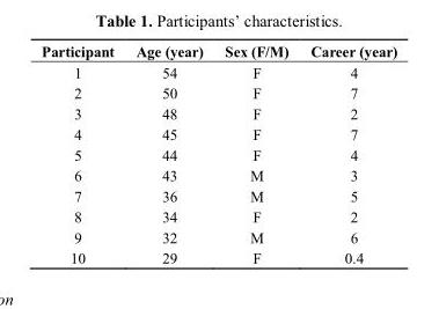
<table><thead><tr><td>Participant</td><td>Age (year)</td><td>Sex (F/M)</td><td>Career (year)</td></tr></thead><tbody><tr><td>1</td><td>54</td><td>F</td><td>4</td></tr><tr><td>2</td><td>50</td><td>F</td><td>7</td></tr><tr><td>3</td><td>48</td><td>F</td><td>2</td></tr><tr><td>4</td><td>45</td><td>F</td><td>7</td></tr><tr><td>5</td><td>44</td><td>F</td><td>4</td></tr><tr><td>6</td><td>43</td><td>M</td><td>3</td></tr><tr><td>7</td><td>36</td><td>M</td><td>5</td></tr><tr><td>8</td><td>34</td><td>F</td><td>2</td></tr><tr><td>9</td><td>32</td><td>M</td><td>6</td></tr><tr><td>10</td><td>29</td><td>F</td><td>0.4</td></tr></tbody></table>